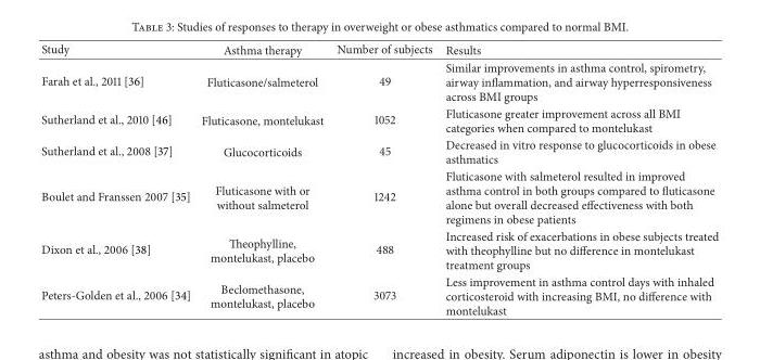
<table><thead><tr><td>Study</td><td>Asthma therapy</td><td>Number of subjects</td><td>Results</td></tr></thead><tbody><tr><td>Farah et al., 2011 [36]</td><td>Fluticasone/salmeterol</td><td>49</td><td>Similar improvements in asthma control, spirometry, airway inflammation, and airway hyperresponsiveness across BMI groups</td></tr><tr><td>Sutherland et al., 2010 [46]</td><td>Fluticasone, montelukast</td><td>1052</td><td>Fluticasone greater improvement across all BMI categories when compared to montelukast</td></tr><tr><td>Sutherland et al., 2008 [37]</td><td>Glucocorticoids</td><td>45</td><td>Decreased in vitro response to glucocorticoids in obese asthmatics</td></tr><tr><td>Boulet and Franssen 2007 [35]</td><td>Fluticasone with or without salmeterol</td><td>1242</td><td>Fluticasone with salmeterol resulted in improved asthma control in both groups compared to fluticasone alone but overall decreased effectiveness with both regimens in obese patients</td></tr><tr><td>Dixon et al., 2006 [38]</td><td>Theophylline, montelukast, placebo</td><td>488</td><td>Increased risk of exacerbations in obese subjects treated with theophylline but no difference in montelukast treatment groups</td></tr><tr><td>Peters-Golden et al., 2006 [34]</td><td>Beclomethasone, montelukast, placebo</td><td>3073</td><td>Less improvement in asthma control days with inhaled corticosteroid with increasing BMI, no difference with montelukast</td></tr></tbody></table>